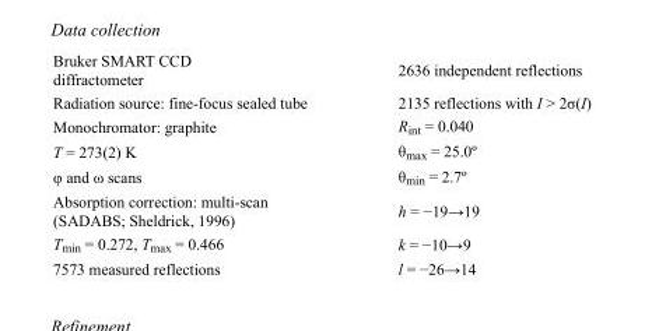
<table><tbody><tr><td>Bruker SMART CCD diffractometer</td><td>2636 independent reflections</td></tr><tr><td>Radiation source: fine-focus sealed tube</td><td>2135 reflections with I &gt; 2σ(I)</td></tr><tr><td>Monochromator: graphite</td><td>R<sub>int</sub> = 0.040</td></tr><tr><td>T = 273(2) K</td><td>θ<sub>max</sub> = 25.0º</td></tr><tr><td>φ and ω scans</td><td>θ<sub>min</sub> = 2.7º</td></tr><tr><td>Absorption correction: multi-scan (SADABS; Sheldrick, 1996)</td><td>h = −19→19</td></tr><tr><td>T<sub>min</sub> = 0.272, T<sub>max</sub> = 0.466</td><td>k = −10→9</td></tr><tr><td>7573 measured reflections</td><td>l = −26→14</td></tr></tbody></table>